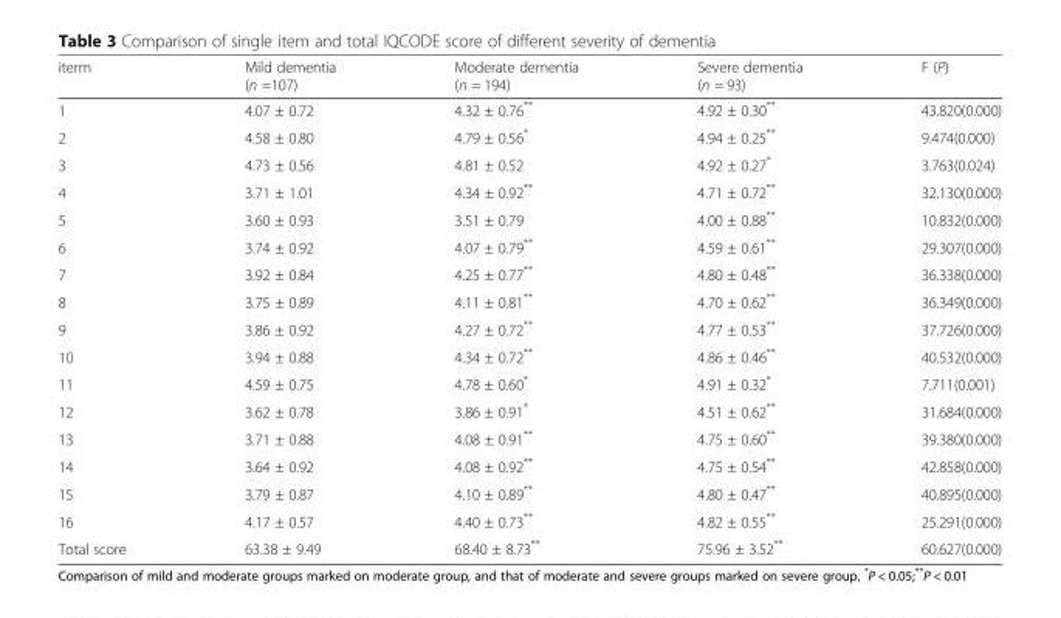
<table><thead><tr><td>iterm</td><td>Mild dementia (n =107)</td><td>Moderate dementia (n = 194)</td><td>Severe dementia (n = 93)</td><td>F (P)</td></tr></thead><tbody><tr><td>1</td><td>4.07 ± 0.72</td><td>4.32 ± 0.76**</td><td>4.92 ± 0.30**</td><td>43.820(0.000)</td></tr><tr><td>2</td><td>4.58 ± 0.80</td><td>4.79 ± 0.56*</td><td>4.94 ± 0.25**</td><td>9.474(0.000)</td></tr><tr><td>3</td><td>4.73 ± 0.56</td><td>4.81 ± 0.52</td><td>4.92 ± 0.27*</td><td>3.763(0.024)</td></tr><tr><td>4</td><td>3.71 ± 1.01</td><td>4.34 ± 0.92**</td><td>4.71 ± 0.72**</td><td>32.130(0.000)</td></tr><tr><td>5</td><td>3.60 ± 0.93</td><td>3.51 ± 0.79</td><td>4.00 ± 0.88**</td><td>10.832(0.000)</td></tr><tr><td>6</td><td>3.74 ± 0.92</td><td>4.07 ± 0.79**</td><td>4.59 ± 0.61**</td><td>29.307(0.000)</td></tr><tr><td>7</td><td>3.92 ± 0.84</td><td>4.25 ± 0.77**</td><td>4.80 ± 0.48**</td><td>36.338(0.000)</td></tr><tr><td>8</td><td>3.75 ± 0.89</td><td>4.11 ± 0.81**</td><td>4.70 ± 0.62**</td><td>36.349(0.000)</td></tr><tr><td>9</td><td>3.86 ± 0.92</td><td>4.27 ± 0.72**</td><td>4.77 ± 0.53**</td><td>37.726(0.000)</td></tr><tr><td>10</td><td>3.94 ± 0.88</td><td>4.34 ± 0.72**</td><td>4.86 ± 0.46**</td><td>40.532(0.000)</td></tr><tr><td>11</td><td>4.59 ± 0.75</td><td>4.78 ± 0.60*</td><td>4.91 ± 0.32*</td><td>7.711(0.001)</td></tr><tr><td>12</td><td>3.62 ± 0.78</td><td>3.86 ± 0.91*</td><td>4.51 ± 0.62**</td><td>31.684(0.000)</td></tr><tr><td>13</td><td>3.71 ± 0.88</td><td>4.08 ± 0.91**</td><td>4.75 ± 0.60**</td><td>39.380(0.000)</td></tr><tr><td>14</td><td>3.64 ± 0.92</td><td>4.08 ± 0.92**</td><td>4.75 ± 0.54**</td><td>42.858(0.000)</td></tr><tr><td>15</td><td>3.79 ± 0.87</td><td>4.10 ± 0.89**</td><td>4.80 ± 0.47**</td><td>40.895(0.000)</td></tr><tr><td>16</td><td>4.17 ± 0.57</td><td>4.40 ± 0.73**</td><td>4.82 ± 0.55**</td><td>25.291(0.000)</td></tr><tr><td>Total score</td><td>63.38 ± 9.49</td><td>68.40 ± 8.73**</td><td>75.96 ± 3.52**</td><td>60.627(0.000)</td></tr></tbody></table>